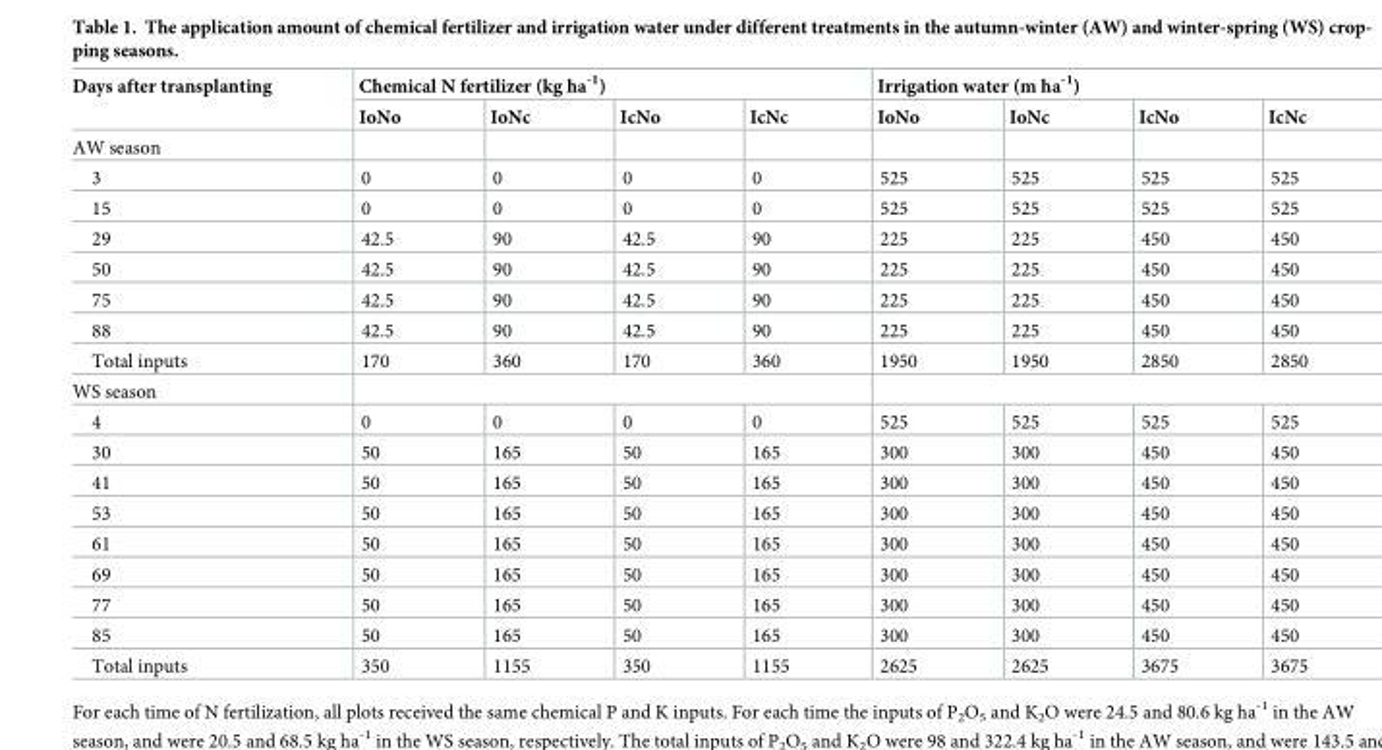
<table><thead><tr><td rowspan="2">Days after transplanting</td><td colspan="4">Chemical N fertilizer (kg ha<sup>-1</sup>)</td><td colspan="4">Irrigation water (m ha-1)</td></tr><tr><td>IoNo</td><td>IoNc</td><td>IcNo</td><td>IcNc</td><td>IoNo</td><td>IoNc</td><td>IcNo</td><td>IcNc</td></tr></thead><tbody><tr><td colspan="9">AW season</td></tr><tr><td>3</td><td>0</td><td>0</td><td>0</td><td>0</td><td>525</td><td>525</td><td>525</td><td>525</td></tr><tr><td>15</td><td>0</td><td>0</td><td>0</td><td>0</td><td>525</td><td>525</td><td>525</td><td>525</td></tr><tr><td>29</td><td>42.5</td><td>90</td><td>42.5</td><td>90</td><td>225</td><td>225</td><td>450</td><td>450</td></tr><tr><td>50</td><td>42.5</td><td>90</td><td>42.5</td><td>90</td><td>225</td><td>225</td><td>450</td><td>450</td></tr><tr><td>75</td><td>42.5</td><td>90</td><td>42.5</td><td>90</td><td>225</td><td>225</td><td>450</td><td>450</td></tr><tr><td>88</td><td>42.5</td><td>90</td><td>42.5</td><td>90</td><td>225</td><td>225</td><td>450</td><td>450</td></tr><tr><td>Total inputs</td><td>170</td><td>360</td><td>170</td><td>360</td><td>1950</td><td>1950</td><td>2850</td><td>2850</td></tr><tr><td colspan="9">WS season</td></tr><tr><td>4</td><td>0</td><td>0</td><td>0</td><td>0</td><td>525</td><td>525</td><td>525</td><td>525</td></tr><tr><td>30</td><td>50</td><td>165</td><td>50</td><td>165</td><td>300</td><td>300</td><td>450</td><td>450</td></tr><tr><td>41</td><td>50</td><td>165</td><td>50</td><td>165</td><td>300</td><td>300</td><td>450</td><td>450</td></tr><tr><td>53</td><td>50</td><td>165</td><td>50</td><td>165</td><td>300</td><td>300</td><td>450</td><td>450</td></tr><tr><td>61</td><td>50</td><td>165</td><td>50</td><td>165</td><td>300</td><td>300</td><td>450</td><td>450</td></tr><tr><td>69</td><td>50</td><td>165</td><td>50</td><td>165</td><td>300</td><td>300</td><td>450</td><td>450</td></tr><tr><td>77</td><td>50</td><td>165</td><td>50</td><td>165</td><td>300</td><td>300</td><td>450</td><td>450</td></tr><tr><td>85</td><td>50</td><td>165</td><td>50</td><td>165</td><td>300</td><td>300</td><td>450</td><td>450</td></tr><tr><td>Total inputs</td><td>350</td><td>1155</td><td>350</td><td>1155</td><td>2625</td><td>2625</td><td>3675</td><td>3675</td></tr></tbody></table>